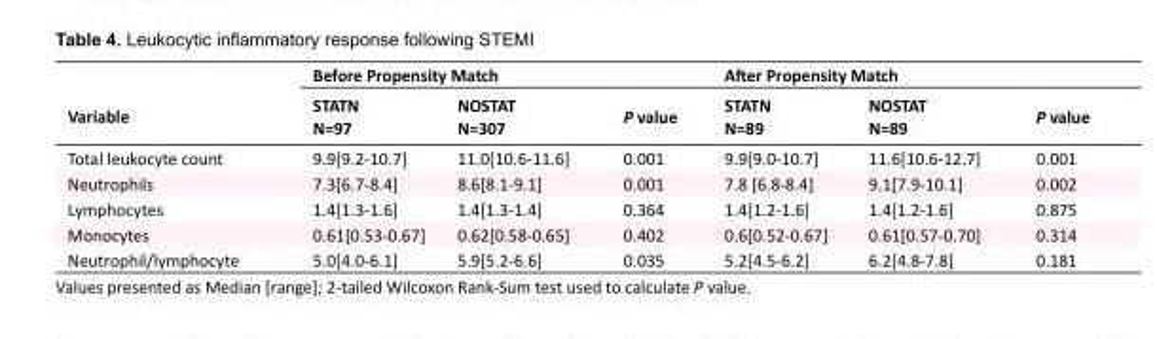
<table><tbody><tr><td rowspan="2">Variable</td><td colspan="3">Before Propensity Match</td><td colspan="3">After Propensity Match</td></tr><tr><td>STATN N=97</td><td>NOSTAT N=307</td><td>P value</td><td>STATN N=89</td><td>NOSTAT N=89</td><td>P value</td></tr><tr><td>Total leukocyte count</td><td>9.9[9.2-10.7]</td><td>11.0[10.6-11.6]</td><td>0.001</td><td>9.9[9.0-10.7]</td><td>11.6[10.6-12.7]</td><td>0.001</td></tr><tr><td>Neutrophils</td><td>7.3[6.7-8.4]</td><td>8.6[8.1-9.1]</td><td>0.001</td><td>7.8 [6.8-8.4]</td><td>9.1[7.9-10.1]</td><td>0.002</td></tr><tr><td>Lymphocytes</td><td>1.4[1.3-1.6]</td><td>1.4[1.3-1.4]</td><td>0.364</td><td>1.4[1.2-1.6]</td><td>1.4[1.2-1.6]</td><td>0.875</td></tr><tr><td>Monocytes</td><td>0.61[0.53-0.67]</td><td>0.62[0.58-0.65]</td><td>0.402</td><td>0.6[0.52-0.67]</td><td>0.61[0.57-0.70]</td><td>0.314</td></tr><tr><td>Neutrophil/lymphocyte</td><td>5.0[4.0-6.1]</td><td>5.9[5.2-6.6]</td><td>0.035</td><td>5.2[4.5-6.2]</td><td>6.2[4.8-7.8]</td><td>0.181</td></tr></tbody></table>